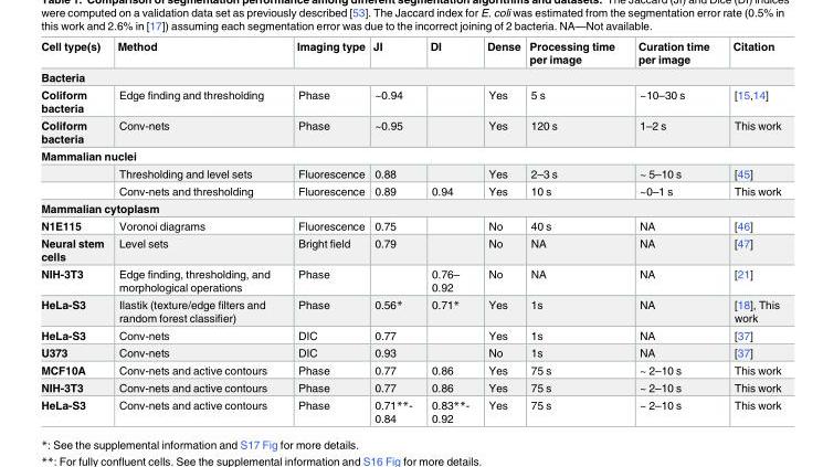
<table><thead><tr><td>Cell type(s)</td><td>Method</td><td>Imaging type</td><td>JI</td><td>DI</td><td>Dense</td><td>Processing time per image</td><td>Curation time per image</td><td>Citation</td></tr></thead><tbody><tr><td colspan="9">Bacteria</td></tr><tr><td>Coliform bacteria</td><td>Edge finding and thresholding</td><td>Phase</td><td>~0.94</td><td></td><td>Yes</td><td>5 s</td><td>~10–30 s</td><td>[15,14]</td></tr><tr><td>Coliform bacteria</td><td>Conv-nets</td><td>Phase</td><td>~0.95</td><td></td><td>Yes</td><td>120 s</td><td>1–2 s</td><td>This work</td></tr><tr><td colspan="9">Mammalian nuclei</td></tr><tr><td></td><td>Thresholding and level sets</td><td>Fluorescence</td><td>0.88</td><td></td><td>Yes</td><td>2–3 s</td><td>~ 5–10 s</td><td>[45]</td></tr><tr><td></td><td>Conv-nets and thresholding</td><td>Fluorescence</td><td>0.89</td><td>0.94</td><td>Yes</td><td>10 s</td><td>~0–1 s</td><td>This work</td></tr><tr><td colspan="9">Mammalian cytoplasm</td></tr><tr><td>N1E115</td><td>Voronoi diagrams</td><td>Fluorescence</td><td>0.75</td><td></td><td>No</td><td>40 s</td><td>NA</td><td>[46]</td></tr><tr><td>Neural stem cells</td><td>Level sets</td><td>Bright field</td><td>0.79</td><td></td><td>No</td><td>NA</td><td>NA</td><td>[47]</td></tr><tr><td>NIH-3T3</td><td>Edge finding, thresholding, and morphological operations</td><td>Phase</td><td></td><td>0.76– 0.92</td><td>No</td><td>NA</td><td>NA</td><td>[21]</td></tr><tr><td>HeLa-S3</td><td>Ilastik (texture/edge filters and random forest classifier)</td><td>Phase</td><td>0.56*</td><td>0.71*</td><td>Yes</td><td>1s</td><td>NA</td><td>[18], This work</td></tr><tr><td>HeLa-S3</td><td>Conv-nets</td><td>DIC</td><td>0.77</td><td></td><td>Yes</td><td>1s</td><td>NA</td><td>[37]</td></tr><tr><td>U373</td><td>Conv-nets</td><td>DIC</td><td>0.93</td><td></td><td>No</td><td>1s</td><td>NA</td><td>[37]</td></tr><tr><td>MCF10A</td><td>Conv-nets and active contours</td><td>Phase</td><td>0.77</td><td>0.86</td><td>Yes</td><td>75 s</td><td>~ 2–10 s</td><td>This work</td></tr><tr><td>NIH-3T3</td><td>Conv-nets and active contours</td><td>Phase</td><td>0.77</td><td>0.86</td><td>Yes</td><td>75 s</td><td>~ 2–10 s</td><td>This work</td></tr><tr><td>HeLa-S3</td><td>Conv-nets and active contours</td><td>Phase</td><td>0.71**- 0.84</td><td>0.83**- 0.92</td><td>Yes</td><td>75 s</td><td>~ 2–10 s</td><td>This work</td></tr></tbody></table>